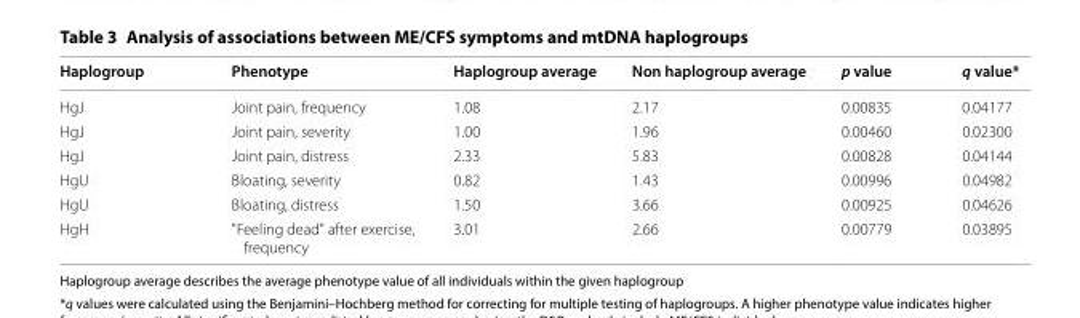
<table><thead><tr><td>Haplogroup</td><td>Phenotype</td><td>Haplogroup average</td><td>Non haplogroup average</td><td>p value</td><td>q value*</td></tr></thead><tbody><tr><td>HgJ</td><td>Joint pain, frequency</td><td>1.08</td><td>2.17</td><td>0.00835</td><td>0.04177</td></tr><tr><td>HgJ</td><td>Joint pain, severity</td><td>1.00</td><td>1.96</td><td>0.00460</td><td>0.02300</td></tr><tr><td>HgJ</td><td>Joint pain, distress</td><td>2.33</td><td>5.83</td><td>0.00828</td><td>0.04144</td></tr><tr><td>HgU</td><td>Bloating, severity</td><td>0.82</td><td>1.43</td><td>0.00996</td><td>0.04982</td></tr><tr><td>HgU</td><td>Bloating, distress</td><td>1.50</td><td>3.66</td><td>0.00925</td><td>0.04626</td></tr><tr><td>HgH</td><td>&quot;Feeling dead&quot; after exercise, frequency</td><td>3.01</td><td>2.66</td><td>0.00779</td><td>0.03895</td></tr></tbody></table>